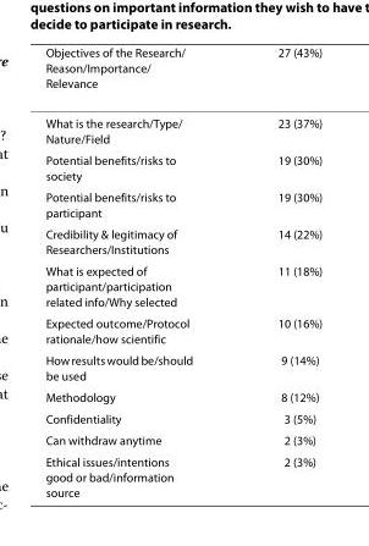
<table><thead><tr><td>Objectives of the Research/ Reason/Importance/ Relevance</td><td>27 (43%)</td></tr></thead><tbody><tr><td>What is the research/Type/ Nature/Field</td><td>23 (37%)</td></tr><tr><td>Potential benefits/risks to society</td><td>19 (30%)</td></tr><tr><td>Potential benefits/risks to participant</td><td>19 (30%)</td></tr><tr><td>Credibility &amp; legitimacy of Researchers/Institutions</td><td>14 (22%)</td></tr><tr><td>What is expected of participant/participation related info/Why selected</td><td>11 (18%)</td></tr><tr><td>Expected outcome/Protocol rationale/how scientific</td><td>10 (16%)</td></tr><tr><td>How results would be/should be used</td><td>9 (14%)</td></tr><tr><td>Methodology</td><td>8 (12%)</td></tr><tr><td>Confidentiality</td><td>3 (5%)</td></tr><tr><td>Can withdraw anytime</td><td>2 (3%)</td></tr><tr><td>Ethical issues/intentions good or bad/information source</td><td>2 (3%)</td></tr></tbody></table>